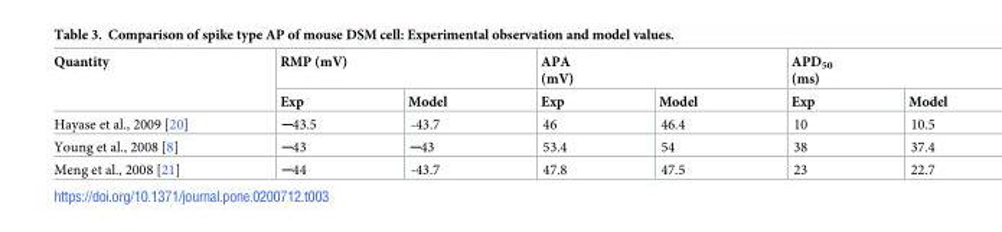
<table><thead><tr><td rowspan="2">Quantity</td><td colspan="2">RMP (mV)</td><td colspan="2">APA (mV)</td><td colspan="2">APD<sub>50</sub> (ms)</td></tr><tr><td>Exp</td><td>Model</td><td>Exp</td><td>Model</td><td>Exp</td><td>Model</td></tr></thead><tbody><tr><td>Hayase et al., 2009 [20]</td><td>─43.5</td><td>-43.7</td><td>46</td><td>46.4</td><td>10</td><td>10.5</td></tr><tr><td>Young et al., 2008 [8]</td><td>─43</td><td>─43</td><td>53.4</td><td>54</td><td>38</td><td>37.4</td></tr><tr><td>Meng et al., 2008 [21]</td><td>─44</td><td>-43.7</td><td>47.8</td><td>47.5</td><td>23</td><td>22.7</td></tr></tbody></table>